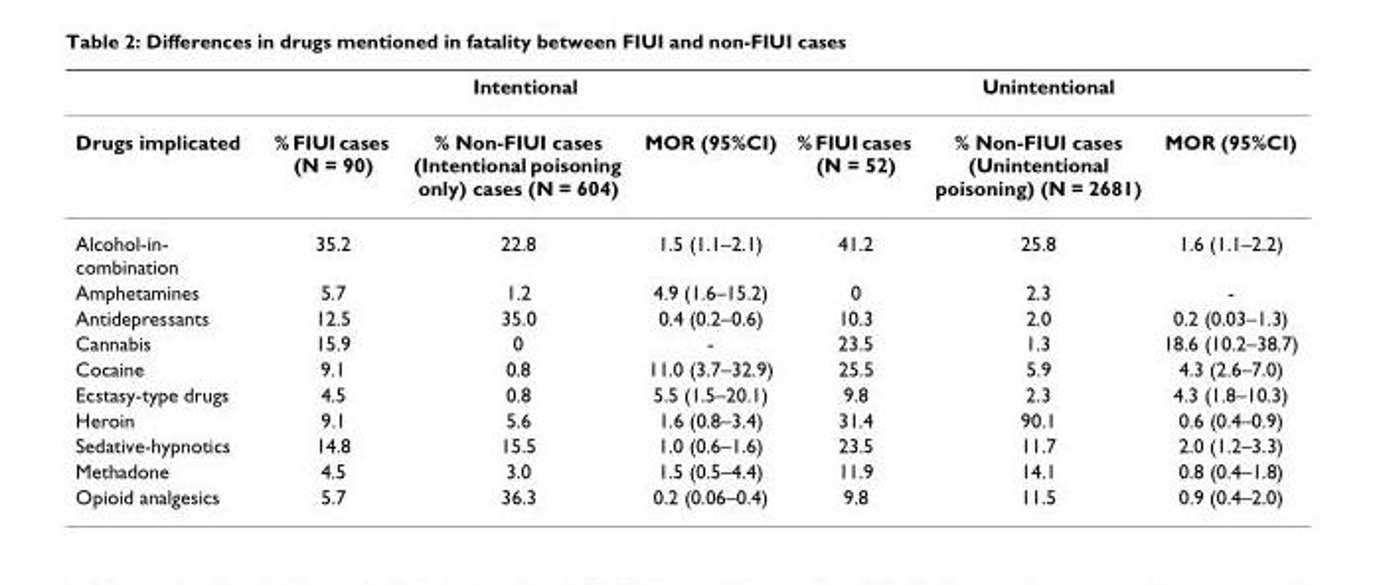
<table><thead><tr><td rowspan="2">Drugs implicated</td><td colspan="3">Intentional</td><td colspan="3">Unintentional</td></tr><tr><td>% FIUI cases (N = 90)</td><td>% Non-FIUI cases (Intentional poisoning only) cases (N = 604)</td><td>MOR (95%CI)</td><td>% FIUI cases (N = 52)</td><td>% Non-FIUI cases (Unintentional poisoning) (N = 2681)</td><td>MOR (95%CI)</td></tr></thead><tbody><tr><td>Alcohol-in- combination</td><td>35.2</td><td>22.8</td><td>1.5 (1.1–2.1)</td><td>41.2</td><td>25.8</td><td>1.6 (1.1–2.2)</td></tr><tr><td>Amphetamines</td><td>5.7</td><td>1.2</td><td>4.9 (1.6–15.2)</td><td>0</td><td>2.3</td><td>-</td></tr><tr><td>Antidepressants</td><td>12.5</td><td>35.0</td><td>0.4 (0.2–0.6)</td><td>10.3</td><td>2.0</td><td>0.2 (0.03–1.3)</td></tr><tr><td>Cannabis</td><td>15.9</td><td>0</td><td>-</td><td>23.5</td><td>1.3</td><td>18.6 (10.2–38.7)</td></tr><tr><td>Cocaine</td><td>9.1</td><td>0.8</td><td>11.0 (3.7–32.9)</td><td>25.5</td><td>5.9</td><td>4.3 (2.6–7.0)</td></tr><tr><td>Ecstasy-type drugs</td><td>4.5</td><td>0.8</td><td>5.5 (1.5–20.1)</td><td>9.8</td><td>2.3</td><td>4.3 (1.8–10.3)</td></tr><tr><td>Heroin</td><td>9.1</td><td>5.6</td><td>1.6 (0.8–3.4)</td><td>31.4</td><td>90.1</td><td>0.6 (0.4–0.9)</td></tr><tr><td>Sedative-hypnotics</td><td>14.8</td><td>15.5</td><td>1.0 (0.6–1.6)</td><td>23.5</td><td>11.7</td><td>2.0 (1.2–3.3)</td></tr><tr><td>Methadone</td><td>4.5</td><td>3.0</td><td>1.5 (0.5–4.4)</td><td>11.9</td><td>14.1</td><td>0.8 (0.4–1.8)</td></tr><tr><td>Opioid analgesics</td><td>5.7</td><td>36.3</td><td>0.2 (0.06–0.4)</td><td>9.8</td><td>11.5</td><td>0.9 (0.4–2.0)</td></tr></tbody></table>